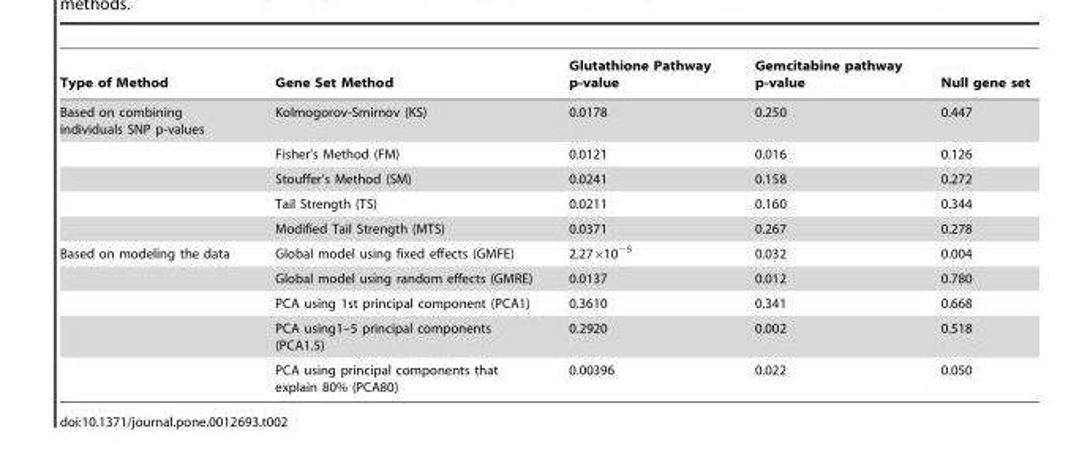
<table><thead><tr><td>Type of Method</td><td>Gene Set Method</td><td>Glutathione Pathway p-value</td><td>Gemcitabine pathway p-value</td><td>Null gene set</td></tr></thead><tbody><tr><td rowspan="5">Based on combining individuals SNP p-values</td><td>Kolmogorov-Smirnov (KS)</td><td>0.0178</td><td>0.250</td><td>0.447</td></tr><tr><td>Fisher’s Method (FM)</td><td>0.0121</td><td>0.016</td><td>0.126</td></tr><tr><td>Stouffer’s Method (SM)</td><td>0.0241</td><td>0.158</td><td>0.272</td></tr><tr><td>Tail Strength (TS)</td><td>0.0211</td><td>0.160</td><td>0.344</td></tr><tr><td>Modified Tail Strength (MTS)</td><td>0.0371</td><td>0.267</td><td>0.278</td></tr><tr><td rowspan="5">Based on modeling the data</td><td>Global model using fixed effects (GMFE)</td><td>2.27×10<sup>−5</sup></td><td>0.032</td><td>0.004</td></tr><tr><td>Global model using random effects (GMRE)</td><td>0.0137</td><td>0.012</td><td>0.780</td></tr><tr><td>PCA using 1st principal component (PCA1)</td><td>0.3610</td><td>0.341</td><td>0.668</td></tr><tr><td>PCA using1–5 principal components (PCA1.5)</td><td>0.2920</td><td>0.002</td><td>0.518</td></tr><tr><td>PCA using principal components that explain 80% (PCA80)</td><td>0.00396</td><td>0.022</td><td>0.050</td></tr></tbody></table>